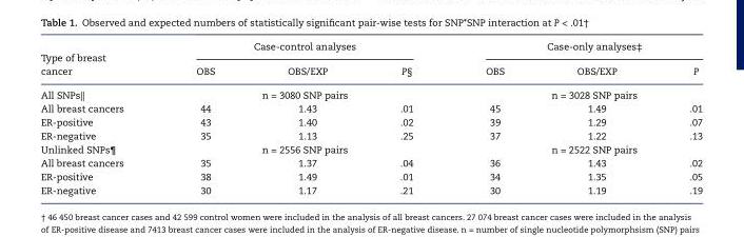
<table><thead><tr><td rowspan="2">Type of breast cancer</td><td colspan="3">Case-control analyses</td><td colspan="3">Case-only analyses‡</td></tr><tr><td>OBS</td><td>OBS/EXP</td><td>P§</td><td>OBS</td><td>OBS/EXP</td><td>P</td></tr></thead><tbody><tr><td>All SNPs||</td><td colspan="3">n = 3080 SNP pairs</td><td colspan="3">n = 3028 SNP pairs</td></tr><tr><td>All breast cancers</td><td>44</td><td>1.43</td><td>.01</td><td>45</td><td>1.49</td><td>.01</td></tr><tr><td>ER-positive</td><td>43</td><td>1.40</td><td>.02</td><td>39</td><td>1.29</td><td>.07</td></tr><tr><td>ER-negative</td><td>35</td><td>1.13</td><td>.25</td><td>37</td><td>1.22</td><td>.13</td></tr><tr><td>Unlinked SNPs¶</td><td colspan="3">n = 2556 SNP pairs</td><td colspan="3">n = 2522 SNP pairs</td></tr><tr><td>All breast cancers</td><td>35</td><td>1.37</td><td>.04</td><td>36</td><td>1.43</td><td>.02</td></tr><tr><td>ER-positive</td><td>38</td><td>1.49</td><td>.01</td><td>34</td><td>1.35</td><td>.05</td></tr><tr><td>ER-negative</td><td>30</td><td>1.17</td><td>.21</td><td>30</td><td>1.19</td><td>.19</td></tr></tbody></table>